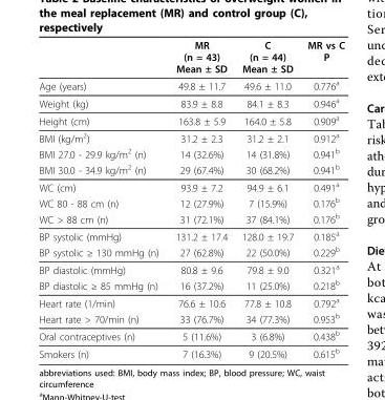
<table><thead><tr><td></td><td>MR (n = 43) Mean ± SD</td><td>C (n = 44) Mean ± SD</td><td>MR vs C P</td></tr></thead><tbody><tr><td>Age (years)</td><td>49.8 ± 11.7</td><td>49.6 ± 11.0</td><td>0.776<sup>a</sup></td></tr><tr><td>Weight (kg)</td><td>83.9 ± 8.8</td><td>84.1 ± 8.3</td><td>0.946<sup>a</sup></td></tr><tr><td>Height (cm)</td><td>163.8 ± 5.9</td><td>164.0 ± 5.8</td><td>0.909<sup>a</sup></td></tr><tr><td>BMI (kg/m<sup>2</sup>)</td><td>31.2 ± 2.3</td><td>31.2 ± 2.1</td><td>0.912<sup>a</sup></td></tr><tr><td>BMI 27.0 - 29.9 kg/m<sup>2</sup> (n)</td><td>14 (32.6%)</td><td>14 (31.8%)</td><td>0.941<sup>b</sup></td></tr><tr><td>BMI 30.0 - 34.9 kg/m<sup>2</sup> (n)</td><td>29 (67.4%)</td><td>30 (68.2%)</td><td>0.941<sup>b</sup></td></tr><tr><td>WC (cm)</td><td>93.9 ± 7.2</td><td>94.9 ± 6.1</td><td>0.491<sup>a</sup></td></tr><tr><td>WC 80 - 88 cm (n)</td><td>12 (27.9%)</td><td>7 (15.9%)</td><td>0.176<sup>b</sup></td></tr><tr><td>WC &gt; 88 cm (n)</td><td>31 (72.1%)</td><td>37 (84.1%)</td><td>0.176<sup>b</sup></td></tr><tr><td>BP systolic (mmHg)</td><td>131.2 ± 17.4</td><td>128.0 ± 19.7</td><td>0.185<sup>a</sup></td></tr><tr><td>BP systolic ≥ 130 mmHg (n)</td><td>27 (62.8%)</td><td>22 (50.0%)</td><td>0.229<sup>b</sup></td></tr><tr><td>BP diastolic (mmHg)</td><td>80.8 ± 9.6</td><td>79.8 ± 9.0</td><td>0.321<sup>a</sup></td></tr><tr><td>BP diastolic ≥ 85 mmHg (n)</td><td>16 (37.2%)</td><td>11 (25.0%)</td><td>0.218<sup>b</sup></td></tr><tr><td>Heart rate (1/min)</td><td>76.6 ± 10.6</td><td>77.8 ± 10.8</td><td>0.792<sup>a</sup></td></tr><tr><td>Heart rate &gt; 70/min (n)</td><td>33 (76.7%)</td><td>34 (77.3%)</td><td>0.953<sup>b</sup></td></tr><tr><td>Oral contraceptives (n)</td><td>5 (11.6%)</td><td>3 (6.8%)</td><td>0.438<sup>b</sup></td></tr><tr><td>Smokers (n)</td><td>7 (16.3%)</td><td>9 (20.5%)</td><td>0.615<sup>b</sup></td></tr></tbody></table>